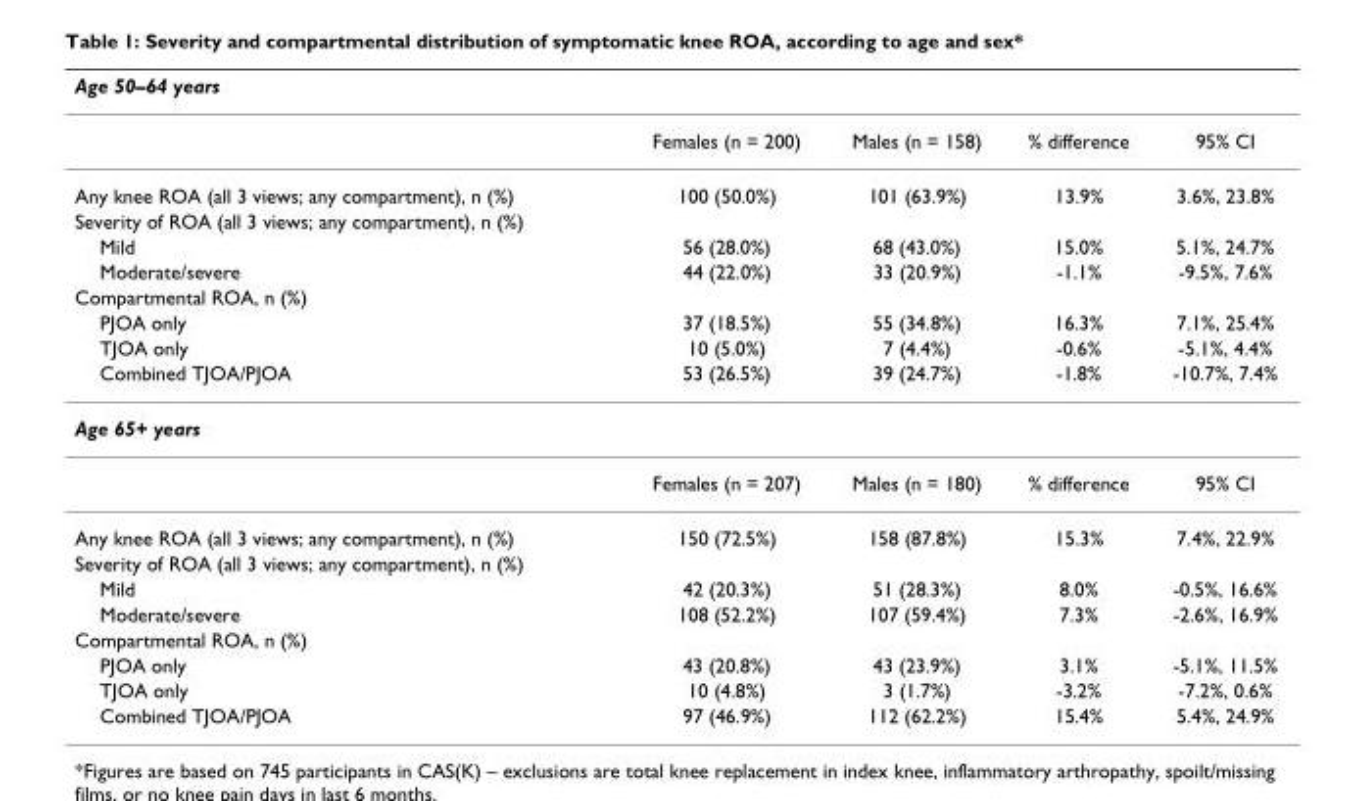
<table><thead><tr><td colspan="5">Age 50–64 years</td></tr><tr><td></td><td>Females (n = 200)</td><td>Males (n = 158)</td><td>% difference</td><td>95% CI</td></tr></thead><tbody><tr><td>Any knee ROA (all 3 views; any compartment), n (%)</td><td>100 (50.0%)</td><td>101 (63.9%)</td><td>13.9%</td><td>3.6%, 23.8%</td></tr><tr><td colspan="5">Severity of ROA (all 3 views; any compartment), n (%)</td></tr><tr><td>Mild</td><td>56 (28.0%)</td><td>68 (43.0%)</td><td>15.0%</td><td>5.1%, 24.7%</td></tr><tr><td>Moderate/severe</td><td>44 (22.0%)</td><td>33 (20.9%)</td><td>-1.1%</td><td>-9.5%, 7.6%</td></tr><tr><td colspan="5">Compartmental ROA, n (%)</td></tr><tr><td>PJOA only</td><td>37 (18.5%)</td><td>55 (34.8%)</td><td>16.3%</td><td>7.1%, 25.4%</td></tr><tr><td>TJOA only</td><td>10 (5.0%)</td><td>7 (4.4%)</td><td>-0.6%</td><td>-5.1%, 4.4%</td></tr><tr><td>Combined TJOA/PJOA</td><td>53 (26.5%)</td><td>39 (24.7%)</td><td>-1.8%</td><td>-10.7%, 7.4%</td></tr><tr><td colspan="5">Age 65+ years</td></tr><tr><td></td><td>Females (n = 207)</td><td>Males (n = 180)</td><td>% difference</td><td>95% CI</td></tr><tr><td>Any knee ROA (all 3 views; any compartment), n (%)</td><td>150 (72.5%)</td><td>158 (87.8%)</td><td>15.3%</td><td>7.4%, 22.9%</td></tr><tr><td colspan="5">Severity of ROA (all 3 views; any compartment), n (%)</td></tr><tr><td>Mild</td><td>42 (20.3%)</td><td>51 (28.3%)</td><td>8.0%</td><td>-0.5%, 16.6%</td></tr><tr><td>Moderate/severe</td><td>108 (52.2%)</td><td>107 (59.4%)</td><td>7.3%</td><td>-2.6%, 16.9%</td></tr><tr><td colspan="5">Compartmental ROA, n (%)</td></tr><tr><td>PJOA only</td><td>43 (20.8%)</td><td>43 (23.9%)</td><td>3.1%</td><td>-5.1%, 11.5%</td></tr><tr><td>TJOA only</td><td>10 (4.8%)</td><td>3 (1.7%)</td><td>-3.2%</td><td>-7.2%, 0.6%</td></tr><tr><td>Combined TJOA/PJOA</td><td>97 (46.9%)</td><td>112 (62.2%)</td><td>15.4%</td><td>5.4%, 24.9%</td></tr></tbody></table>